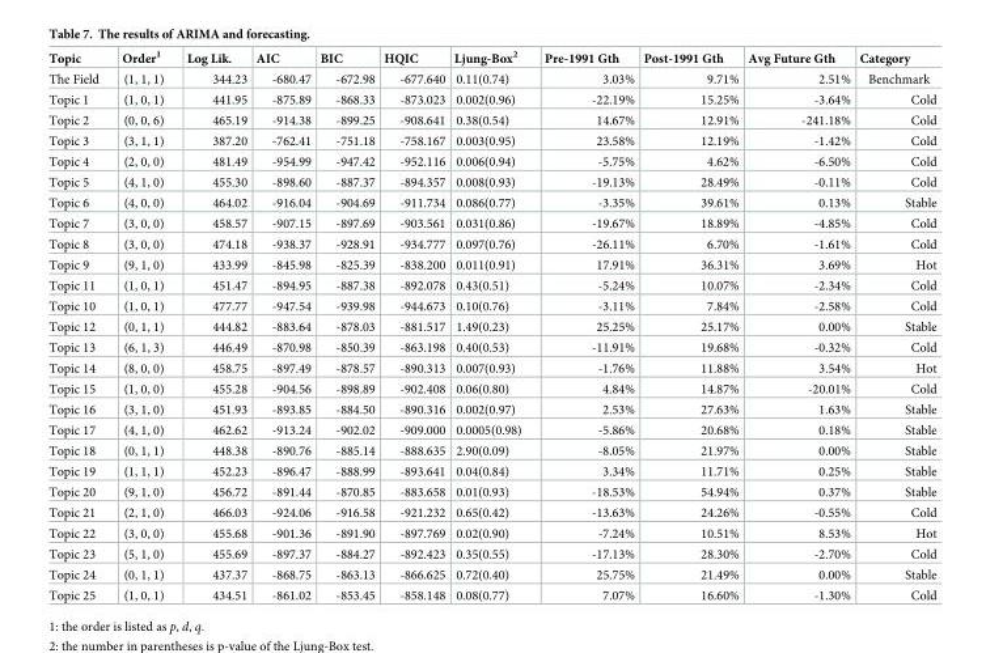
<table><thead><tr><td>Topic</td><td>Order<sup>1</sup></td><td>Log Lik.</td><td>AIC</td><td>BIC</td><td>HQIC</td><td>Ljung-Box<sup>2</sup></td><td>Pre-1991 Gth</td><td>Post-1991 Gth</td><td>Avg Future Gth</td><td>Category</td></tr></thead><tbody><tr><td>The Field</td><td>(1, 1, 1)</td><td>344.23</td><td>-680.47</td><td>-672.98</td><td>-677.640</td><td>0.11(0.74)</td><td>3.03%</td><td>9.71%</td><td>2.51%</td><td>Benchmark</td></tr><tr><td>Topic 1</td><td>(1, 0, 1)</td><td>441.95</td><td>-875.89</td><td>-868.33</td><td>-873.023</td><td>0.002(0.96)</td><td>-22.19%</td><td>15.25%</td><td>-3.64%</td><td>Cold</td></tr><tr><td>Topic 2</td><td>(0, 0, 6)</td><td>465.19</td><td>-914.38</td><td>-899.25</td><td>-908.641</td><td>0.38(0.54)</td><td>14.67%</td><td>12.91%</td><td>-241.18%</td><td>Cold</td></tr><tr><td>Topic 3</td><td>(3, 1, 1)</td><td>387.20</td><td>-762.41</td><td>-751.18</td><td>-758.167</td><td>0.003(0.95)</td><td>23.58%</td><td>12.19%</td><td>-1.42%</td><td>Cold</td></tr><tr><td>Topic 4</td><td>(2, 0, 0)</td><td>481.49</td><td>-954.99</td><td>-947.42</td><td>-952.116</td><td>0.006(0.94)</td><td>-5.75%</td><td>4.62%</td><td>-6.50%</td><td>Cold</td></tr><tr><td>Topic 5</td><td>(4, 1, 0)</td><td>455.30</td><td>-898.60</td><td>-887.37</td><td>-894.357</td><td>0.008(0.93)</td><td>-19.13%</td><td>28.49%</td><td>-0.11%</td><td>Cold</td></tr><tr><td>Topic 6</td><td>(4, 0, 0)</td><td>464.02</td><td>-916.04</td><td>-904.69</td><td>-911.734</td><td>0.086(0.77)</td><td>-3.35%</td><td>39.61%</td><td>0.13%</td><td>Stable</td></tr><tr><td>Topic 7</td><td>(3, 0, 0)</td><td>458.57</td><td>-907.15</td><td>-897.69</td><td>-903.561</td><td>0.031(0.86)</td><td>-19.67%</td><td>18.89%</td><td>-4.85%</td><td>Cold</td></tr><tr><td>Topic 8</td><td>(3, 0, 0)</td><td>474.18</td><td>-938.37</td><td>-928.91</td><td>-934.777</td><td>0.097(0.76)</td><td>-26.11%</td><td>6.70%</td><td>-1.61%</td><td>Cold</td></tr><tr><td>Topic 9</td><td>(9, 1, 0)</td><td>433.99</td><td>-845.98</td><td>-825.39</td><td>-838.200</td><td>0.011(0.91)</td><td>17.91%</td><td>36.31%</td><td>3.69%</td><td>Hot</td></tr><tr><td>Topic 11</td><td>(1, 0, 1)</td><td>451.47</td><td>-894.95</td><td>-887.38</td><td>-892.078</td><td>0.43(0.51)</td><td>-5.24%</td><td>10.07%</td><td>-2.34%</td><td>Cold</td></tr><tr><td>Topic 10</td><td>(1, 0, 1)</td><td>477.77</td><td>-947.54</td><td>-939.98</td><td>-944.673</td><td>0.10(0.76)</td><td>-3.11%</td><td>7.84%</td><td>-2.58%</td><td>Cold</td></tr><tr><td>Topic 12</td><td>(0, 1, 1)</td><td>444.82</td><td>-883.64</td><td>-878.03</td><td>-881.517</td><td>1.49(0.23)</td><td>25.25%</td><td>25.17%</td><td>0.00%</td><td>Stable</td></tr><tr><td>Topic 13</td><td>(6, 1, 3)</td><td>446.49</td><td>-870.98</td><td>-850.39</td><td>-863.198</td><td>0.40(0.53)</td><td>-11.91%</td><td>19.68%</td><td>-0.32%</td><td>Cold</td></tr><tr><td>Topic 14</td><td>(8, 0, 0)</td><td>458.75</td><td>-897.49</td><td>-878.57</td><td>-890.313</td><td>0.007(0.93)</td><td>-1.76%</td><td>11.88%</td><td>3.54%</td><td>Hot</td></tr><tr><td>Topic 15</td><td>(1, 0, 0)</td><td>455.28</td><td>-904.56</td><td>-898.89</td><td>-902.408</td><td>0.06(0.80)</td><td>4.84%</td><td>14.87%</td><td>-20.01%</td><td>Cold</td></tr><tr><td>Topic 16</td><td>(3, 1, 0)</td><td>451.93</td><td>-893.85</td><td>-884.50</td><td>-890.316</td><td>0.002(0.97)</td><td>2.53%</td><td>27.63%</td><td>1.63%</td><td>Stable</td></tr><tr><td>Topic 17</td><td>(4, 1, 0)</td><td>462.62</td><td>-913.24</td><td>-902.02</td><td>-909.000</td><td>0.0005(0.98)</td><td>-5.86%</td><td>20.68%</td><td>0.18%</td><td>Stable</td></tr><tr><td>Topic 18</td><td>(0, 1, 1)</td><td>448.38</td><td>-890.76</td><td>-885.14</td><td>-888.635</td><td>2.90(0.09)</td><td>-8.05%</td><td>21.97%</td><td>0.00%</td><td>Stable</td></tr><tr><td>Topic 19</td><td>(1, 1, 1)</td><td>452.23</td><td>-896.47</td><td>-888.99</td><td>-893.641</td><td>0.04(0.84)</td><td>3.34%</td><td>11.71%</td><td>0.25%</td><td>Stable</td></tr><tr><td>Topic 20</td><td>(9, 1, 0)</td><td>456.72</td><td>-891.44</td><td>-870.85</td><td>-883.658</td><td>0.01(0.93)</td><td>-18.53%</td><td>54.94%</td><td>0.37%</td><td>Stable</td></tr><tr><td>Topic 21</td><td>(2, 1, 0)</td><td>466.03</td><td>-924.06</td><td>-916.58</td><td>-921.232</td><td>0.65(0.42)</td><td>-13.63%</td><td>24.26%</td><td>-0.55%</td><td>Cold</td></tr><tr><td>Topic 22</td><td>(3, 0, 0)</td><td>455.68</td><td>-901.36</td><td>-891.90</td><td>-897.769</td><td>0.02(0.90)</td><td>-7.24%</td><td>10.51%</td><td>8.53%</td><td>Hot</td></tr><tr><td>Topic 23</td><td>(5, 1, 0)</td><td>455.69</td><td>-897.37</td><td>-884.27</td><td>-892.423</td><td>0.35(0.55)</td><td>-17.13%</td><td>28.30%</td><td>-2.70%</td><td>Cold</td></tr><tr><td>Topic 24</td><td>(0, 1, 1)</td><td>437.37</td><td>-868.75</td><td>-863.13</td><td>-866.625</td><td>0.72(0.40)</td><td>25.75%</td><td>21.49%</td><td>0.00%</td><td>Stable</td></tr><tr><td>Topic 25</td><td>(1, 0, 1)</td><td>434.51</td><td>-861.02</td><td>-853.45</td><td>-858.148</td><td>0.08(0.77)</td><td>7.07%</td><td>16.60%</td><td>-1.30%</td><td>Cold</td></tr></tbody></table>